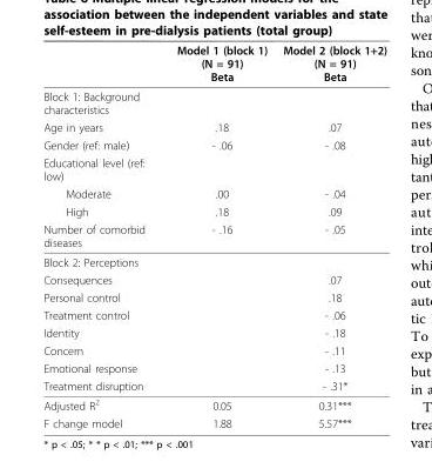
<table><thead><tr><td></td><td>Model 1 (block 1) (N = 91) Beta</td><td>Model 2 (block 1+2) (N = 91) Beta</td></tr></thead><tbody><tr><td colspan="3">Block 1: Background characteristics</td></tr><tr><td>Age in years</td><td>.18</td><td>.07</td></tr><tr><td>Gender (ref: male)</td><td>- .06</td><td>- .08</td></tr><tr><td colspan="3">Educational level (ref: low)</td></tr><tr><td>Moderate</td><td>.00</td><td>- .04</td></tr><tr><td>High</td><td>.18</td><td>.09</td></tr><tr><td>Number of comorbid diseases</td><td>- .16</td><td>- .05</td></tr><tr><td colspan="3">Block 2: Perceptions</td></tr><tr><td>Consequences</td><td></td><td>.07</td></tr><tr><td>Personal control</td><td></td><td>.18</td></tr><tr><td>Treatment control</td><td></td><td>- .06</td></tr><tr><td>Identity</td><td></td><td>- .18</td></tr><tr><td>Concern</td><td></td><td>- .11</td></tr><tr><td>Emotional response</td><td></td><td>- .13</td></tr><tr><td>Treatment disruption</td><td></td><td>- .31*</td></tr><tr><td>Adjusted R<sup>2</sup></td><td>0.05</td><td>0.31***</td></tr><tr><td>F change model</td><td>1.88</td><td>5.57***</td></tr></tbody></table>